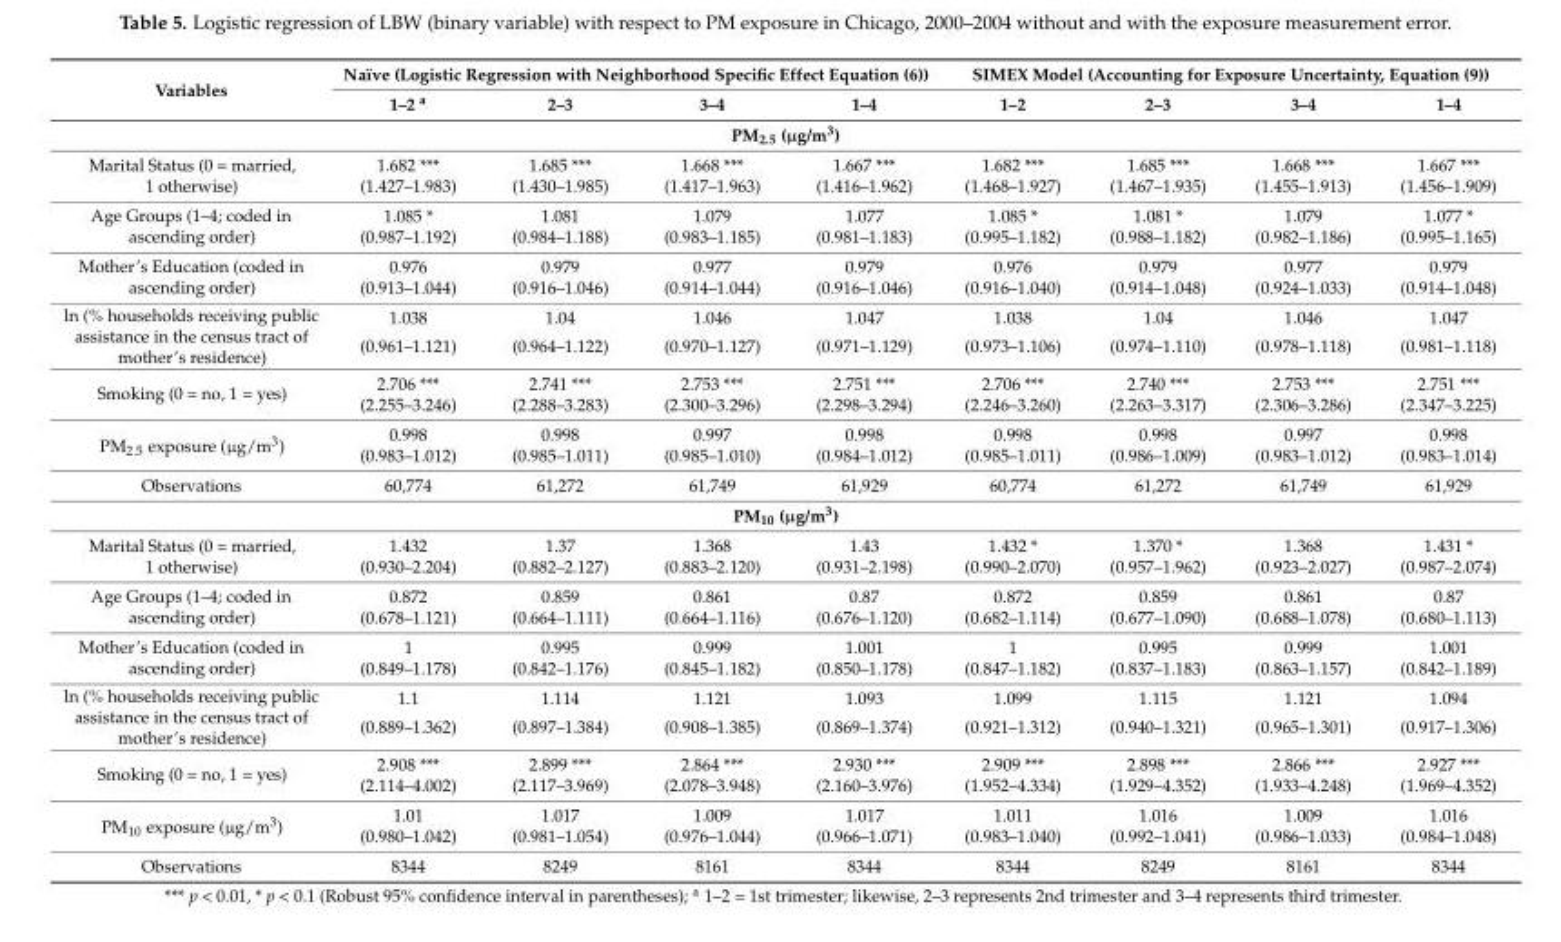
<table><thead><tr><td rowspan="2">Variables</td><td colspan="4">Naïve (Logistic Regression with Neighborhood Specific Effect Equation (6))</td><td colspan="4">SIMEX Model (Accounting for Exposure Uncertainty, Equation (9))</td></tr><tr><td>1–2 <sup>a</sup></td><td>2–3</td><td>3–4</td><td>1–4</td><td>1–2</td><td>2–3</td><td>3–4</td><td>1–4</td></tr></thead><tbody><tr><td colspan="9">PM<sub>2.5</sub> (µg/m<sup>3</sup>)</td></tr><tr><td rowspan="2">Marital Status (0 = married, 1 otherwise)</td><td>1.682 ***</td><td>1.685 ***</td><td>1.668 ***</td><td>1.667 ***</td><td>1.682 ***</td><td>1.685 ***</td><td>1.668 ***</td><td>1.667 ***</td></tr><tr><td>(1.427–1.983)</td><td>(1.430–1.985)</td><td>(1.417–1.963)</td><td>(1.416–1.962)</td><td>(1.468–1.927)</td><td>(1.467–1.935)</td><td>(1.455–1.913)</td><td>(1.456–1.909)</td></tr><tr><td rowspan="2">Age Groups (1–4; coded in ascending order)</td><td>1.085 *</td><td>1.081</td><td>1.079</td><td>1.077</td><td>1.085 *</td><td>1.081 *</td><td>1.079</td><td>1.077 *</td></tr><tr><td>(0.987–1.192)</td><td>(0.984–1.188)</td><td>(0.983–1.185)</td><td>(0.981–1.183)</td><td>(0.995–1.182)</td><td>(0.988–1.182)</td><td>(0.982–1.186)</td><td>(0.995–1.165)</td></tr><tr><td rowspan="2">Mother’s Education (coded in ascending order)</td><td>0.976</td><td>0.979</td><td>0.977</td><td>0.979</td><td>0.976</td><td>0.979</td><td>0.977</td><td>0.979</td></tr><tr><td>(0.913–1.044)</td><td>(0.916–1.046)</td><td>(0.914–1.044)</td><td>(0.916–1.046)</td><td>(0.916–1.040)</td><td>(0.914–1.048)</td><td>(0.924–1.033)</td><td>(0.914–1.048)</td></tr><tr><td rowspan="2">ln (% households receiving public assistance in the census tract of mother’s residence)</td><td>1.038</td><td>1.04</td><td>1.046</td><td>1.047</td><td>1.038</td><td>1.04</td><td>1.046</td><td>1.047</td></tr><tr><td>(0.961–1.121)</td><td>(0.964–1.122)</td><td>(0.970–1.127)</td><td>(0.971–1.129)</td><td>(0.973–1.106)</td><td>(0.974–1.110)</td><td>(0.978–1.118)</td><td>(0.981–1.118)</td></tr><tr><td rowspan="2">Smoking (0 = no, 1 = yes)</td><td>2.706 ***</td><td>2.741 ***</td><td>2.753 ***</td><td>2.751 ***</td><td>2.706 ***</td><td>2.740 ***</td><td>2.753 ***</td><td>2.751 ***</td></tr><tr><td>(2.255–3.246)</td><td>(2.288–3.283)</td><td>(2.300–3.296)</td><td>(2.298–3.294)</td><td>(2.246–3.260)</td><td>(2.263–3.317)</td><td>(2.306–3.286)</td><td>(2.347–3.225)</td></tr><tr><td rowspan="2">PM<sub>2.5</sub> exposure (µg/m<sup>3</sup>)</td><td>0.998</td><td>0.998</td><td>0.997</td><td>0.998</td><td>0.998</td><td>0.998</td><td>0.997</td><td>0.998</td></tr><tr><td>(0.983–1.012)</td><td>(0.985–1.011)</td><td>(0.985–1.010)</td><td>(0.984–1.012)</td><td>(0.985–1.011)</td><td>(0.986–1.009)</td><td>(0.983–1.012)</td><td>(0.983–1.014)</td></tr><tr><td>Observations</td><td>60,774</td><td>61,272</td><td>61,749</td><td>61,929</td><td>60,774</td><td>61,272</td><td>61,749</td><td>61,929</td></tr><tr><td colspan="9">PM<sub>10</sub> (µg/m<sup>3</sup>)</td></tr><tr><td rowspan="2">Marital Status (0 = married, 1 otherwise)</td><td>1.432</td><td>1.37</td><td>1.368</td><td>1.43</td><td>1.432 *</td><td>1.370 *</td><td>1.368</td><td>1.431 *</td></tr><tr><td>(0.930–2.204)</td><td>(0.882–2.127)</td><td>(0.883–2.120)</td><td>(0.931–2.198)</td><td>(0.990–2.070)</td><td>(0.957–1.962)</td><td>(0.923–2.027)</td><td>(0.987–2.074)</td></tr><tr><td rowspan="2">Age Groups (1–4; coded in ascending order)</td><td>0.872</td><td>0.859</td><td>0.861</td><td>0.87</td><td>0.872</td><td>0.859</td><td>0.861</td><td>0.87</td></tr><tr><td>(0.678–1.121)</td><td>(0.664–1.111)</td><td>(0.664–1.116)</td><td>(0.676–1.120)</td><td>(0.682–1.114)</td><td>(0.677–1.090)</td><td>(0.688–1.078)</td><td>(0.680–1.113)</td></tr><tr><td rowspan="2">Mother’s Education (coded in ascending order)</td><td>1</td><td>0.995</td><td>0.999</td><td>1.001</td><td>1</td><td>0.995</td><td>0.999</td><td>1.001</td></tr><tr><td>(0.849–1.178)</td><td>(0.842–1.176)</td><td>(0.845–1.182)</td><td>(0.850–1.178)</td><td>(0.847–1.182)</td><td>(0.837–1.183)</td><td>(0.863–1.157)</td><td>(0.842–1.189)</td></tr><tr><td rowspan="2">ln (% households receiving public assistance in the census tract of mother’s residence)</td><td>1.1</td><td>1.114</td><td>1.121</td><td>1.093</td><td>1.099</td><td>1.115</td><td>1.121</td><td>1.094</td></tr><tr><td>(0.889–1.362)</td><td>(0.897–1.384)</td><td>(0.908–1.385)</td><td>(0.869–1.374)</td><td>(0.921–1.312)</td><td>(0.940–1.321)</td><td>(0.965–1.301)</td><td>(0.917–1.306)</td></tr><tr><td rowspan="2">Smoking (0 = no, 1 = yes)</td><td>2.908 ***</td><td>2.899 ***</td><td>2.864 ***</td><td>2.930 ***</td><td>2.909 ***</td><td>2.898 ***</td><td>2.866 ***</td><td>2.927 ***</td></tr><tr><td>(2.114–4.002)</td><td>(2.117–3.969)</td><td>(2.078–3.948)</td><td>(2.160–3.976)</td><td>(1.952–4.334)</td><td>(1.929–4.352)</td><td>(1.933–4.248)</td><td>(1.969–4.352)</td></tr><tr><td rowspan="2">PM<sub>10</sub> exposure (µg/m<sup>3</sup>)</td><td>1.01</td><td>1.017</td><td>1.009</td><td>1.017</td><td>1.011</td><td>1.016</td><td>1.009</td><td>1.016</td></tr><tr><td>(0.980–1.042)</td><td>(0.981–1.054)</td><td>(0.976–1.044)</td><td>(0.966–1.071)</td><td>(0.983–1.040)</td><td>(0.992–1.041)</td><td>(0.986–1.033)</td><td>(0.984–1.048)</td></tr><tr><td>Observations</td><td>8344</td><td>8249</td><td>8161</td><td>8344</td><td>8344</td><td>8249</td><td>8161</td><td>8344</td></tr></tbody></table>